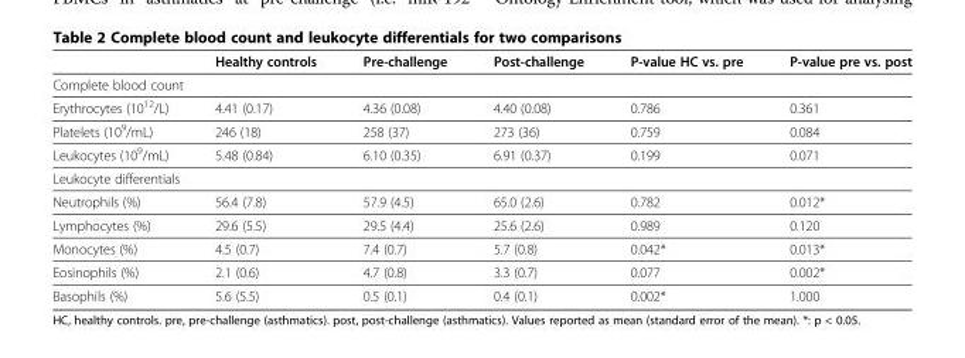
<table><thead><tr><td></td><td>Healthy controls</td><td>Pre-challenge</td><td>Post-challenge</td><td>P-value HC vs. pre</td><td>P-value pre vs. post</td></tr></thead><tbody><tr><td colspan="6">Complete blood count</td></tr><tr><td>Erythrocytes (10<sup>12</sup>/L)</td><td>4.41 (0.17)</td><td>4.36 (0.08)</td><td>4.40 (0.08)</td><td>0.786</td><td>0.361</td></tr><tr><td>Platelets (10<sup>9</sup>/mL)</td><td>246 (18)</td><td>258 (37)</td><td>273 (36)</td><td>0.759</td><td>0.084</td></tr><tr><td>Leukocytes (10<sup>9</sup>/mL)</td><td>5.48 (0.84)</td><td>6.10 (0.35)</td><td>6.91 (0.37)</td><td>0.199</td><td>0.071</td></tr><tr><td colspan="6">Leukocyte differentials</td></tr><tr><td>Neutrophils (%)</td><td>56.4 (7.8)</td><td>57.9 (4.5)</td><td>65.0 (2.6)</td><td>0.782</td><td>0.012*</td></tr><tr><td>Lymphocytes (%)</td><td>29.6 (5.5)</td><td>29.5 (4.4)</td><td>25.6 (2.6)</td><td>0.989</td><td>0.120</td></tr><tr><td>Monocytes (%)</td><td>4.5 (0.7)</td><td>7.4 (0.7)</td><td>5.7 (0.8)</td><td>0.042*</td><td>0.013*</td></tr><tr><td>Eosinophils (%)</td><td>2.1 (0.6)</td><td>4.7 (0.8)</td><td>3.3 (0.7)</td><td>0.077</td><td>0.002*</td></tr><tr><td>Basophils (%)</td><td>5.6 (5.5)</td><td>0.5 (0.1)</td><td>0.4 (0.1)</td><td>0.002*</td><td>1.000</td></tr></tbody></table>